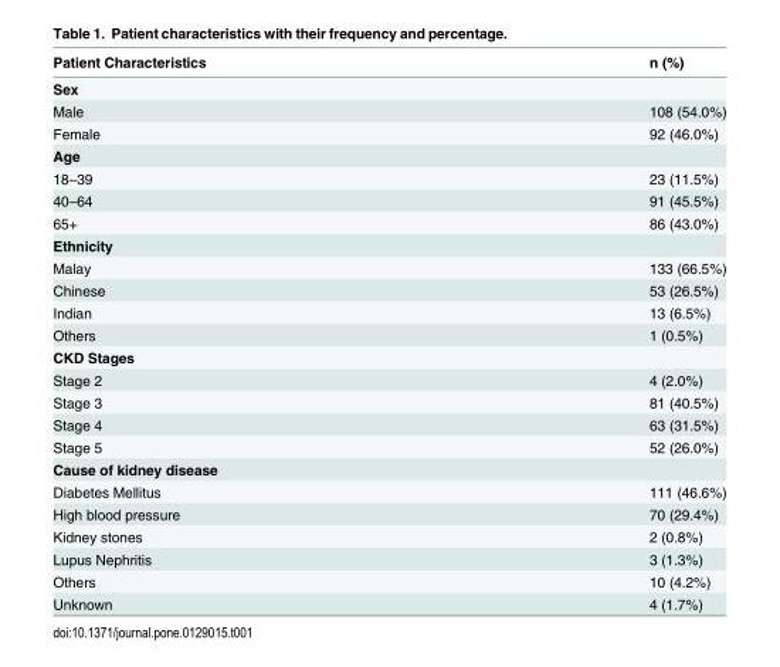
<table><thead><tr><td>Patient Characteristics</td><td>n (%)</td></tr></thead><tbody><tr><td colspan="2">Sex</td></tr><tr><td>Male</td><td>108 (54.0%)</td></tr><tr><td>Female</td><td>92 (46.0%)</td></tr><tr><td colspan="2">Age</td></tr><tr><td>18–39</td><td>23 (11.5%)</td></tr><tr><td>40–64</td><td>91 (45.5%)</td></tr><tr><td>65+</td><td>86 (43.0%)</td></tr><tr><td colspan="2">Ethnicity</td></tr><tr><td>Malay</td><td>133 (66.5%)</td></tr><tr><td>Chinese</td><td>53 (26.5%)</td></tr><tr><td>Indian</td><td>13 (6.5%)</td></tr><tr><td>Others</td><td>1 (0.5%)</td></tr><tr><td colspan="2">CKD Stages</td></tr><tr><td>Stage 2</td><td>4 (2.0%)</td></tr><tr><td>Stage 3</td><td>81 (40.5%)</td></tr><tr><td>Stage 4</td><td>63 (31.5%)</td></tr><tr><td>Stage 5</td><td>52 (26.0%)</td></tr><tr><td colspan="2">Cause of kidney disease</td></tr><tr><td>Diabetes Mellitus</td><td>111 (46.6%)</td></tr><tr><td>High blood pressure</td><td>70 (29.4%)</td></tr><tr><td>Kidney stones</td><td>2 (0.8%)</td></tr><tr><td>Lupus Nephritis</td><td>3 (1.3%)</td></tr><tr><td>Others</td><td>10 (4.2%)</td></tr><tr><td>Unknown</td><td>4 (1.7%)</td></tr></tbody></table>